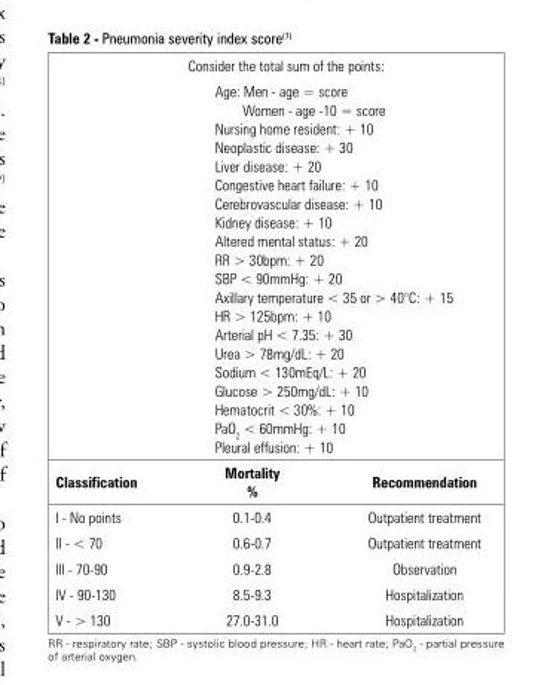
<table><tbody><tr><td colspan="3">Consider the total sum of the points:</td></tr><tr><td colspan="3">Age: Men - age = score Women - age -10 = score Nursing home resident: + 10 Neoplastic disease: + 30 Liver disease: + 20 Congestive heart failure: + 10 Cerebrovascular disease: + 10 Kidney disease: + 10 Altered mental status: + 20 RR &gt; 30bpm: + 20 SBP &lt; 90mmHg: + 20 Axillary temperature &lt; 35 or &gt; 40°C: + 15 HR &gt; 125bpm: + 10 Arterial pH &lt; 7.35: + 30 Urea &gt; 78mg/dL: + 20 Sodium &lt; 130mEq/L: + 20 Glucose &gt; 250mg/dL: + 10 Hematocrit &lt; 30%: + 10 PaO<sub>2</sub> &lt; 60mmHg: + 10 Pleural effusion: + 10</td></tr><tr><td>Classification</td><td>Mortality %</td><td>Recommendation</td></tr><tr><td>I - No points</td><td>0.1-0.4</td><td>Outpatient treatment</td></tr><tr><td>II - &lt; 70</td><td>0.6-0.7</td><td>Outpatient treatment</td></tr><tr><td>III - 70-90</td><td>0.9-2.8</td><td>Observation</td></tr><tr><td>IV - 90-130</td><td>8.5-9.3</td><td>Hospitalization</td></tr><tr><td>V - &gt; 130</td><td>27.0-31.0</td><td>Hospitalization</td></tr></tbody></table>